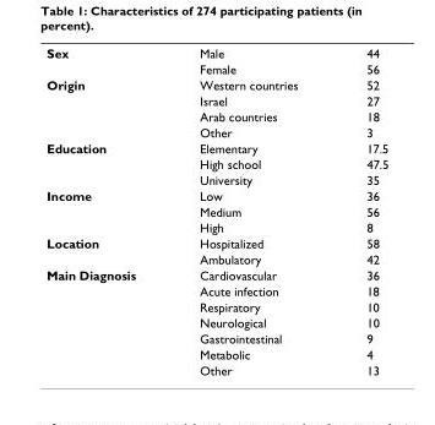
<table><tbody><tr><td rowspan="2">Sex</td><td>Male</td><td>44</td></tr><tr><td>Female</td><td>56</td></tr><tr><td rowspan="4">Origin</td><td>Western countries</td><td>52</td></tr><tr><td>Israel</td><td>27</td></tr><tr><td>Arab countries</td><td>18</td></tr><tr><td>Other</td><td>3</td></tr><tr><td rowspan="3">Education</td><td>Elementary</td><td>17.5</td></tr><tr><td>High school</td><td>47.5</td></tr><tr><td>University</td><td>35</td></tr><tr><td rowspan="3">Income</td><td>Low</td><td>36</td></tr><tr><td>Medium</td><td>56</td></tr><tr><td>High</td><td>8</td></tr><tr><td rowspan="2">Location</td><td>Hospitalized</td><td>58</td></tr><tr><td>Ambulatory</td><td>42</td></tr><tr><td rowspan="7">Main Diagnosis</td><td>Cardiovascular</td><td>36</td></tr><tr><td>Acute infection</td><td>18</td></tr><tr><td>Respiratory</td><td>10</td></tr><tr><td>Neurological</td><td>10</td></tr><tr><td>Gastrointestinal</td><td>9</td></tr><tr><td>Metabolic</td><td>4</td></tr><tr><td>Other</td><td>13</td></tr></tbody></table>